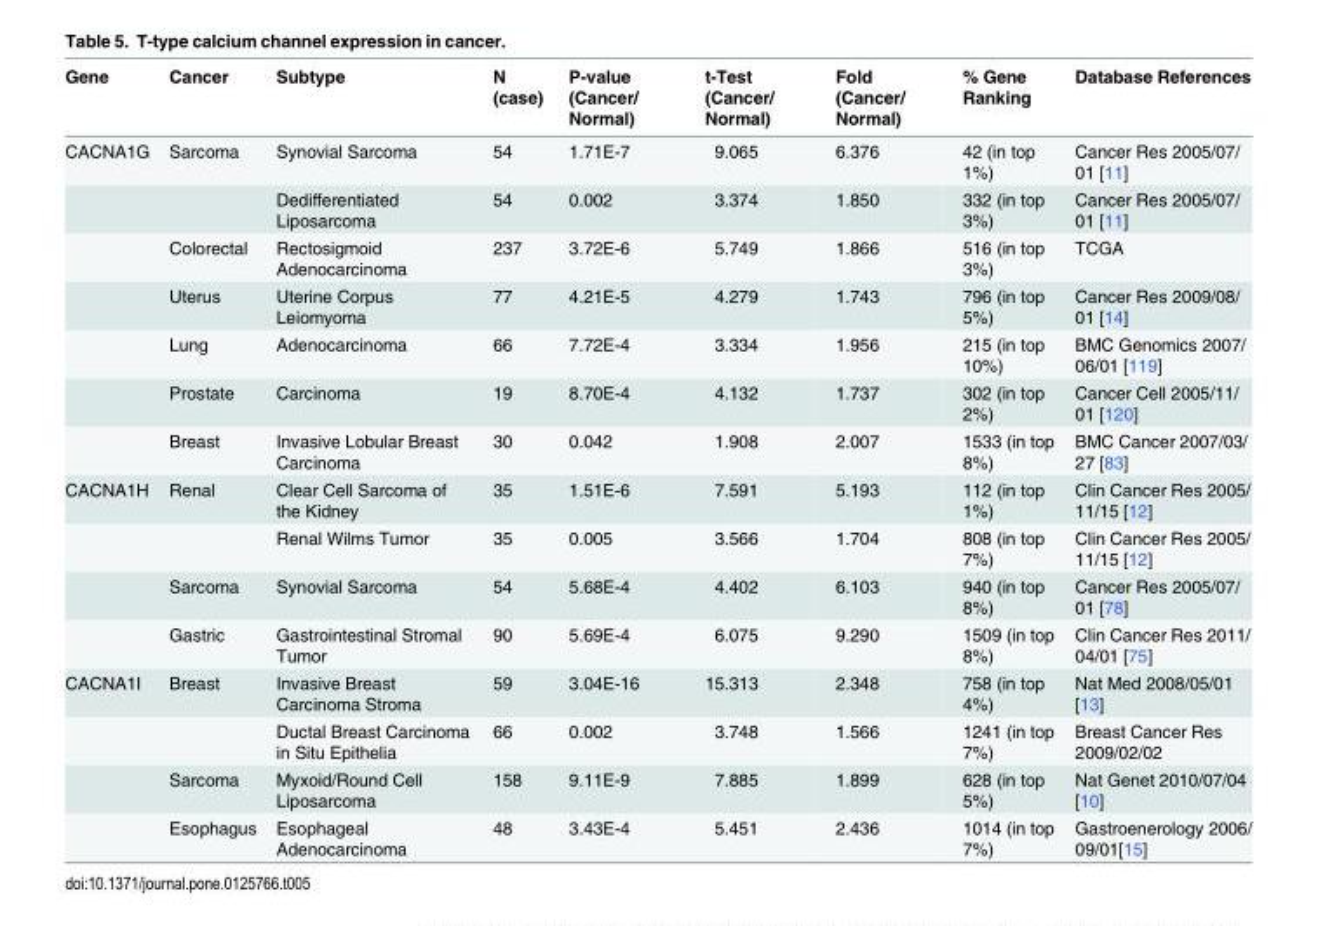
<table><thead><tr><td>Gene</td><td>Cancer</td><td>Subtype</td><td>N (case)</td><td>P-value (Cancer/ Normal)</td><td>t-Test (Cancer/ Normal)</td><td>Fold (Cancer/ Normal)</td><td>% Gene Ranking</td><td>Database References</td></tr></thead><tbody><tr><td rowspan="7">CACNA1G</td><td>Sarcoma</td><td>Synovial Sarcoma</td><td>54</td><td>1.71E-7</td><td>9.065</td><td>6.376</td><td>42 (in top 1%)</td><td>Cancer Res 2005/07/ 01 [11]</td></tr><tr><td></td><td>Dedifferentiated Liposarcoma</td><td>54</td><td>0.002</td><td>3.374</td><td>1.850</td><td>332 (in top 3%)</td><td>Cancer Res 2005/07/ 01 [11]</td></tr><tr><td>Colorectal</td><td>Rectosigmoid Adenocarcinoma</td><td>237</td><td>3.72E-6</td><td>5.749</td><td>1.866</td><td>516 (in top 3%)</td><td>TCGA</td></tr><tr><td>Uterus</td><td>Uterine Corpus Leiomyoma</td><td>77</td><td>4.21E-5</td><td>4.279</td><td>1.743</td><td>796 (in top 5%)</td><td>Cancer Res 2009/08/ 01 [14]</td></tr><tr><td>Lung</td><td>Adenocarcinoma</td><td>66</td><td>7.72E-4</td><td>3.334</td><td>1.956</td><td>215 (in top 10%)</td><td>BMC Genomics 2007/ 06/01 [119]</td></tr><tr><td>Prostate</td><td>Carcinoma</td><td>19</td><td>8.70E-4</td><td>4.132</td><td>1.737</td><td>302 (in top 2%)</td><td>Cancer Cell 2005/11/ 01 [120]</td></tr><tr><td>Breast</td><td>Invasive Lobular Breast Carcinoma</td><td>30</td><td>0.042</td><td>1.908</td><td>2.007</td><td>1533 (in top 8%)</td><td>BMC Cancer 2007/03/ 27 [83]</td></tr><tr><td rowspan="4">CACNA1H</td><td>Renal</td><td>Clear Cell Sarcoma of the Kidney</td><td>35</td><td>1.51E-6</td><td>7.591</td><td>5.193</td><td>112 (in top 1%)</td><td>Clin Cancer Res 2005/ 11/15 [12]</td></tr><tr><td></td><td>Renal Wilms Tumor</td><td>35</td><td>0.005</td><td>3.566</td><td>1.704</td><td>808 (in top 7%)</td><td>Clin Cancer Res 2005/ 11/15 [12]</td></tr><tr><td>Sarcoma</td><td>Synovial Sarcoma</td><td>54</td><td>5.68E-4</td><td>4.402</td><td>6.103</td><td>940 (in top 8%)</td><td>Cancer Res 2005/07/ 01 [78]</td></tr><tr><td>Gastric</td><td>Gastrointestinal Stromal Tumor</td><td>90</td><td>5.69E-4</td><td>6.075</td><td>9.290</td><td>1509 (in top 8%)</td><td>Clin Cancer Res 2011/ 04/01 [75]</td></tr><tr><td rowspan="4">CACNA1I</td><td>Breast</td><td>Invasive Breast Carcinoma Stroma</td><td>59</td><td>3.04E-16</td><td>15.313</td><td>2.348</td><td>758 (in top 4%)</td><td>Nat Med 2008/05/01 [13]</td></tr><tr><td></td><td>Ductal Breast Carcinoma in Situ Epithelia</td><td>66</td><td>0.002</td><td>3.748</td><td>1.566</td><td>1241 (in top 7%)</td><td>Breast Cancer Res 2009/02/02</td></tr><tr><td>Sarcoma</td><td>Myxoid/Round Cell Liposarcoma</td><td>158</td><td>9.11E-9</td><td>7.885</td><td>1.899</td><td>628 (in top 5%)</td><td>Nat Genet 2010/07/04 [10]</td></tr><tr><td>Esophagus</td><td>Esophageal Adenocarcinoma</td><td>48</td><td>3.43E-4</td><td>5.451</td><td>2.436</td><td>1014 (in top 7%)</td><td>Gastroenerology 2006/ 09/01[15]</td></tr></tbody></table>